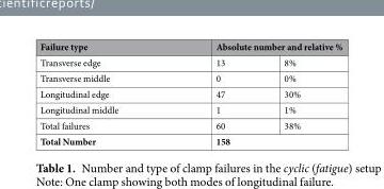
<table><thead><tr><td rowspan="2">Failure type Transverse edge</td><td colspan="2">Absolute number and relative %</td></tr><tr><td>13</td><td>8%</td></tr></thead><tbody><tr><td>Transverse middle</td><td>0</td><td>0%</td></tr><tr><td>Longitudinal edge</td><td>47</td><td>30%</td></tr><tr><td>Longitudinal middle</td><td>1</td><td>1%</td></tr><tr><td>Total failures</td><td>60</td><td>38%</td></tr><tr><td>Total Number</td><td colspan="2">158</td></tr></tbody></table>